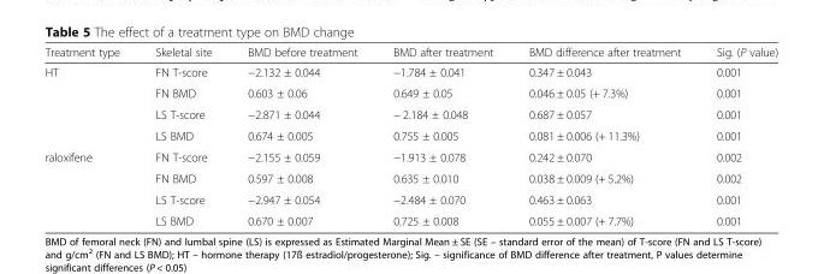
<table><thead><tr><td>Treatment type</td><td>Skeletal site</td><td>BMD before treatment</td><td>BMD after treatment</td><td>BMD difference after treatment</td><td>Sig. (P value)</td></tr></thead><tbody><tr><td rowspan="4">HT</td><td>FN T-score</td><td>−2.132 ± 0.044</td><td>−1.784 ± 0.041</td><td>0.347 ± 0.043</td><td>0.001</td></tr><tr><td>FN BMD</td><td>0.603 ± 0.06</td><td>0.649 ± 0.05</td><td>0.046 ± 0.05 (+ 7.3%)</td><td>0.001</td></tr><tr><td>LS T-score</td><td>−2.871 ± 0.044</td><td>− 2.184 ± 0.048</td><td>0.687 ± 0.057</td><td>0.001</td></tr><tr><td>LS BMD</td><td>0.674 ± 0.005</td><td>0.755 ± 0.005</td><td>0.081 ± 0.006 (+ 11.3%)</td><td>0.001</td></tr><tr><td rowspan="4">raloxifene</td><td>FN T-score</td><td>−2.155 ± 0.059</td><td>−1.913 ± 0.078</td><td>0.242 ± 0.070</td><td>0.002</td></tr><tr><td>FN BMD</td><td>0.597 ± 0.008</td><td>0.635 ± 0.010</td><td>0.038 ± 0.009 (+ 5.2%)</td><td>0.002</td></tr><tr><td>LS T-score</td><td>−2.947 ± 0.054</td><td>−2.484 ± 0.070</td><td>0.463 ± 0.063</td><td>0.001</td></tr><tr><td>LS BMD</td><td>0.670 ± 0.007</td><td>0.725 ± 0.008</td><td>0.055 ± 0.007 (+ 7.7%)</td><td>0.001</td></tr></tbody></table>